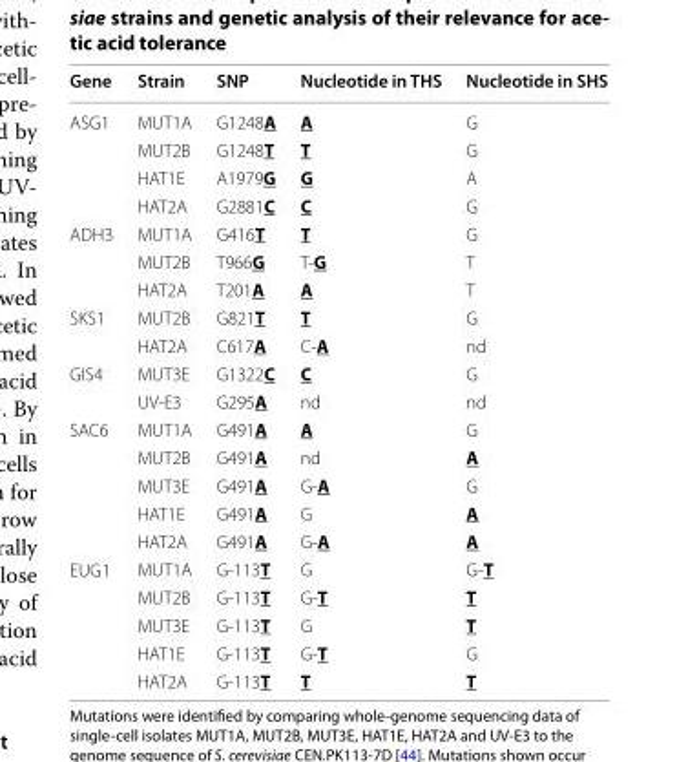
<table><thead><tr><td>Gene</td><td>Strain</td><td>SNP</td><td>Nucleotide in THS</td><td>Nucleotide in SHS</td></tr></thead><tbody><tr><td rowspan="4">ASG1</td><td>MUT1A</td><td>G1248A</td><td>A</td><td>G</td></tr><tr><td>MUT2B</td><td>G1248T</td><td>T</td><td>G</td></tr><tr><td>HAT1E</td><td>A1979G</td><td>G</td><td>A</td></tr><tr><td>HAT2A</td><td>G2881C</td><td>C</td><td>G</td></tr><tr><td rowspan="3">ADH3</td><td>MUT1A</td><td>G416T</td><td>T</td><td>G</td></tr><tr><td>MUT2B</td><td>T966G</td><td>T‑G</td><td>T</td></tr><tr><td>HAT2A</td><td>T201A</td><td>A</td><td>T</td></tr><tr><td rowspan="2">SKS1</td><td>MUT2B</td><td>G821T</td><td>T</td><td>G</td></tr><tr><td>HAT2A</td><td>C617A</td><td>C‑A</td><td>nd</td></tr><tr><td rowspan="2">GIS4</td><td>MUT3E</td><td>G1322C</td><td>C</td><td>G</td></tr><tr><td>UV‑E3</td><td>G295A</td><td>nd</td><td>nd</td></tr><tr><td rowspan="5">SAC6</td><td>MUT1A</td><td>G491A</td><td>A</td><td>G</td></tr><tr><td>MUT2B</td><td>G491A</td><td>nd</td><td>A</td></tr><tr><td>MUT3E</td><td>G491A</td><td>G‑A</td><td>G</td></tr><tr><td>HAT1E</td><td>G491A</td><td>G</td><td>A</td></tr><tr><td>HAT2A</td><td>G491A</td><td>G‑A</td><td>A</td></tr><tr><td rowspan="5">EUG1</td><td>MUT1A</td><td>G‑113T</td><td>G</td><td>G‑T</td></tr><tr><td>MUT2B</td><td>G‑113T</td><td>G‑T</td><td>T</td></tr><tr><td>MUT3E</td><td>G‑113T</td><td>G</td><td>T</td></tr><tr><td>HAT1E</td><td>G‑113T</td><td>G‑T</td><td>G</td></tr><tr><td>HAT2A</td><td>G‑113T</td><td>T</td><td>T</td></tr></tbody></table>